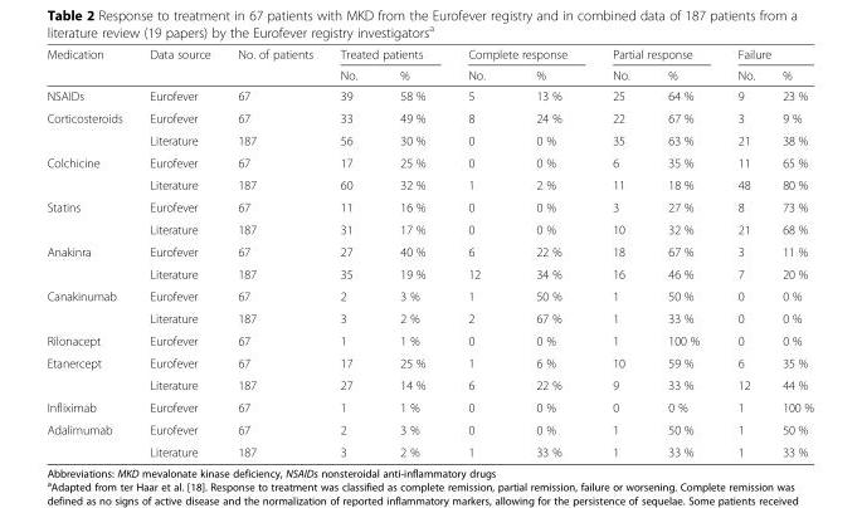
<table><thead><tr><td rowspan="2">Medication</td><td rowspan="2">Data source</td><td rowspan="2">No. of patients</td><td colspan="2">Treated patients</td><td colspan="2">Complete response</td><td colspan="2">Partial response</td><td colspan="2">Failure</td></tr><tr><td>No.</td><td>%</td><td>No.</td><td>%</td><td>No.</td><td>%</td><td>No.</td><td>%</td></tr></thead><tbody><tr><td>NSAIDs</td><td>Eurofever</td><td>67</td><td>39</td><td>58 %</td><td>5</td><td>13 %</td><td>25</td><td>64 %</td><td>9</td><td>23 %</td></tr><tr><td rowspan="2">Corticosteroids</td><td>Eurofever</td><td>67</td><td>33</td><td>49 %</td><td>8</td><td>24 %</td><td>22</td><td>67 %</td><td>3</td><td>9 %</td></tr><tr><td>Literature</td><td>187</td><td>56</td><td>30 %</td><td>0</td><td>0 %</td><td>35</td><td>63 %</td><td>21</td><td>38 %</td></tr><tr><td rowspan="2">Colchicine</td><td>Eurofever</td><td>67</td><td>17</td><td>25 %</td><td>0</td><td>0 %</td><td>6</td><td>35 %</td><td>11</td><td>65 %</td></tr><tr><td>Literature</td><td>187</td><td>60</td><td>32 %</td><td>1</td><td>2 %</td><td>11</td><td>18 %</td><td>48</td><td>80 %</td></tr><tr><td rowspan="2">Statins</td><td>Eurofever</td><td>67</td><td>11</td><td>16 %</td><td>0</td><td>0 %</td><td>3</td><td>27 %</td><td>8</td><td>73 %</td></tr><tr><td>Literature</td><td>187</td><td>31</td><td>17 %</td><td>0</td><td>0 %</td><td>10</td><td>32 %</td><td>21</td><td>68 %</td></tr><tr><td rowspan="2">Anakinra</td><td>Eurofever</td><td>67</td><td>27</td><td>40 %</td><td>6</td><td>22 %</td><td>18</td><td>67 %</td><td>3</td><td>11 %</td></tr><tr><td>Literature</td><td>187</td><td>35</td><td>19 %</td><td>12</td><td>34 %</td><td>16</td><td>46 %</td><td>7</td><td>20 %</td></tr><tr><td rowspan="2">Canakinumab</td><td>Eurofever</td><td>67</td><td>2</td><td>3 %</td><td>1</td><td>50 %</td><td>1</td><td>50 %</td><td>0</td><td>0 %</td></tr><tr><td>Literature</td><td>187</td><td>3</td><td>2 %</td><td>2</td><td>67 %</td><td>1</td><td>33 %</td><td>0</td><td>0 %</td></tr><tr><td>Rilonacept</td><td>Eurofever</td><td>67</td><td>1</td><td>1 %</td><td>0</td><td>0 %</td><td>1</td><td>100 %</td><td>0</td><td>0 %</td></tr><tr><td rowspan="2">Etanercept</td><td>Eurofever</td><td>67</td><td>17</td><td>25 %</td><td>1</td><td>6 %</td><td>10</td><td>59 %</td><td>6</td><td>35 %</td></tr><tr><td>Literature</td><td>187</td><td>27</td><td>14 %</td><td>6</td><td>22 %</td><td>9</td><td>33 %</td><td>12</td><td>44 %</td></tr><tr><td>Infliximab</td><td>Eurofever</td><td>67</td><td>1</td><td>1 %</td><td>0</td><td>0 %</td><td>0</td><td>0 %</td><td>1</td><td>100 %</td></tr><tr><td rowspan="2">Adalimumab</td><td>Eurofever</td><td>67</td><td>2</td><td>3 %</td><td>0</td><td>0 %</td><td>1</td><td>50 %</td><td>1</td><td>50 %</td></tr><tr><td>Literature</td><td>187</td><td>3</td><td>2 %</td><td>1</td><td>33 %</td><td>1</td><td>33 %</td><td>1</td><td>33 %</td></tr></tbody></table>